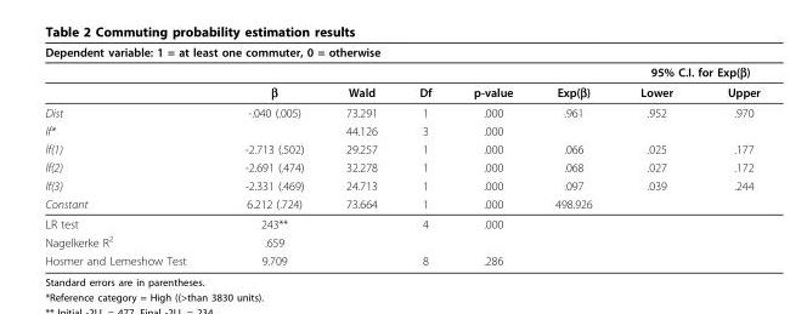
<table><thead><tr><td colspan="8">Dependent variable: 1 = at least one commuter, 0 = otherwise</td></tr><tr><td rowspan="2"></td><td rowspan="2">β</td><td rowspan="2">Wald</td><td rowspan="2">Df</td><td rowspan="2">p-value</td><td rowspan="2">Exp(β)</td><td colspan="2">95% C.I. for Exp(β)</td></tr><tr><td>Lower</td><td>Upper</td></tr></thead><tbody><tr><td>Dist</td><td>-.040 (.005)</td><td>73.291</td><td>1</td><td>.000</td><td>.961</td><td>.952</td><td>.970</td></tr><tr><td>lf*</td><td></td><td>44.126</td><td>3</td><td>.000</td><td></td><td></td><td></td></tr><tr><td>lf(1)</td><td>-2.713 (.502)</td><td>29.257</td><td>1</td><td>.000</td><td>.066</td><td>.025</td><td>.177</td></tr><tr><td>lf(2)</td><td>-2.691 (.474)</td><td>32.278</td><td>1</td><td>.000</td><td>.068</td><td>.027</td><td>.172</td></tr><tr><td>lf(3)</td><td>-2.331 (.469)</td><td>24.713</td><td>1</td><td>.000</td><td>.097</td><td>.039</td><td>.244</td></tr><tr><td>Constant</td><td>6.212 (.724)</td><td>73.664</td><td>1</td><td>.000</td><td>498.926</td><td></td><td></td></tr><tr><td>LR test</td><td>243**</td><td></td><td>4</td><td>.000</td><td></td><td></td><td></td></tr><tr><td>Nagelkerke R<sup>2</sup></td><td>.659</td><td></td><td></td><td></td><td></td><td></td><td></td></tr><tr><td>Hosmer and Lemeshow Test</td><td>9.709</td><td></td><td>8</td><td>.286</td><td></td><td></td><td></td></tr></tbody></table>